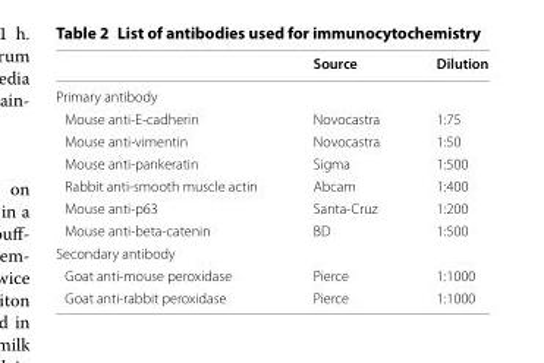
<table><thead><tr><td></td><td>Source</td><td>Dilution</td></tr></thead><tbody><tr><td colspan="3">Primary antibody</td></tr><tr><td>Mouse anti-E-cadherin</td><td>Novocastra</td><td>1:75</td></tr><tr><td>Mouse anti-vimentin</td><td>Novocastra</td><td>1:50</td></tr><tr><td>Mouse anti-pankeratin</td><td>Sigma</td><td>1:500</td></tr><tr><td>Rabbit anti-smooth muscle actin</td><td>Abcam</td><td>1:400</td></tr><tr><td>Mouse anti-p63</td><td>Santa-Cruz</td><td>1:200</td></tr><tr><td>Mouse anti-beta-catenin</td><td>BD</td><td>1:500</td></tr><tr><td colspan="3">Secondary antibody</td></tr><tr><td>Goat anti-mouse peroxidase</td><td>Pierce</td><td>1:1000</td></tr><tr><td>Goat anti-rabbit peroxidase</td><td>Pierce</td><td>1:1000</td></tr></tbody></table>